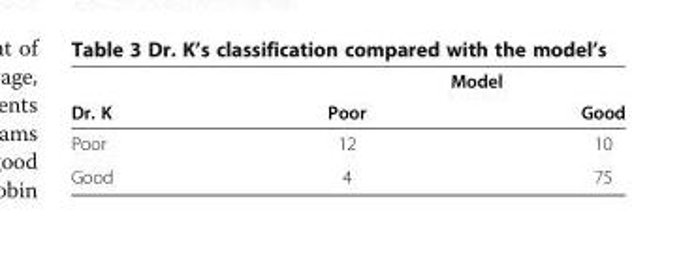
<table><thead><tr><td rowspan="2">Dr. K</td><td colspan="2">Model</td></tr><tr><td>Poor</td><td>Good</td></tr></thead><tbody><tr><td>Poor</td><td>12</td><td>10</td></tr><tr><td>Good</td><td>4</td><td>75</td></tr></tbody></table>